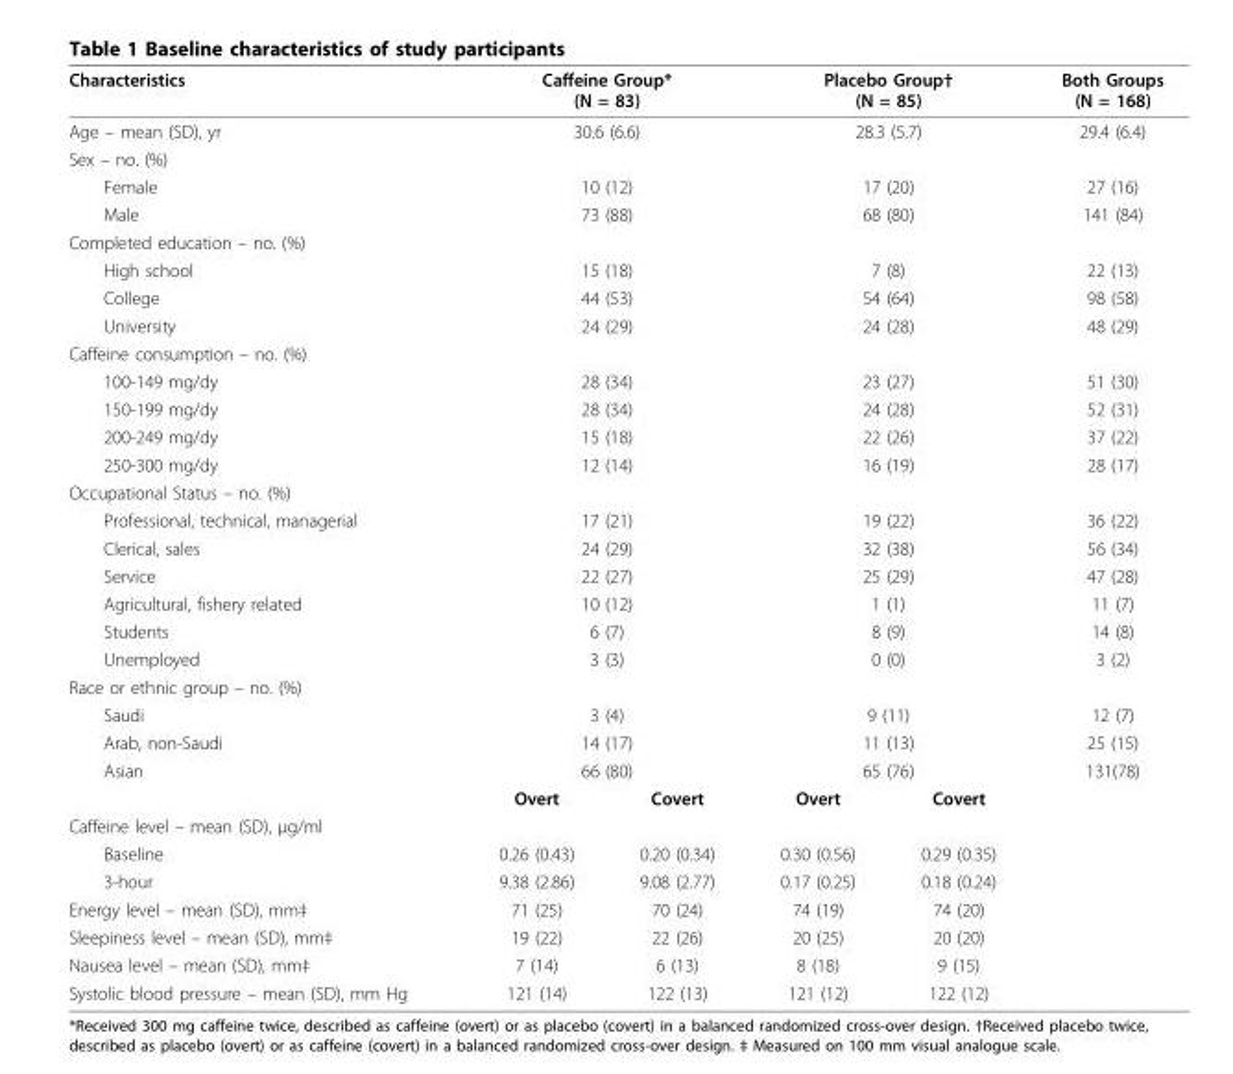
<table><thead><tr><td rowspan="3">Characteristics Age – mean (SD), yr Sex – no. (%)</td><td rowspan="2" colspan="2">Caffeine Group* (N = 83) 30.6 (6.6)</td><td rowspan="2" colspan="2">Placebo Group† (N = 85) 28.3 (5.7)</td><td rowspan="3">Both Groups (N = 168) 29.4 (6.4)</td></tr><tr></tr><tr><td></td><td></td><td></td><td></td></tr></thead><tbody><tr><td>Female</td><td colspan="2">10 (12)</td><td colspan="2">17 (20)</td><td>27 (16)</td></tr><tr><td>Male</td><td colspan="2">73 (88)</td><td colspan="2">68 (80)</td><td>141 (84)</td></tr><tr><td colspan="6">Completed education – no. (%)</td></tr><tr><td>High school</td><td colspan="2">15 (18)</td><td colspan="2">7 (8)</td><td>22 (13)</td></tr><tr><td>College</td><td colspan="2">44 (53)</td><td colspan="2">54 (64)</td><td>98 (58)</td></tr><tr><td>University</td><td colspan="2">24 (29)</td><td colspan="2">24 (28)</td><td>48 (29)</td></tr><tr><td colspan="6">Caffeine consumption – no. (%)</td></tr><tr><td>100-149 mg/dy</td><td colspan="2">28 (34)</td><td colspan="2">23 (27)</td><td>51 (30)</td></tr><tr><td>150-199 mg/dy</td><td colspan="2">28 (34)</td><td colspan="2">24 (28)</td><td>52 (31)</td></tr><tr><td>200-249 mg/dy</td><td colspan="2">15 (18)</td><td colspan="2">22 (26)</td><td>37 (22)</td></tr><tr><td>250-300 mg/dy</td><td colspan="2">12 (14)</td><td colspan="2">16 (19)</td><td>28 (17)</td></tr><tr><td colspan="6">Occupational Status – no. (%)</td></tr><tr><td>Professional, technical, managerial</td><td colspan="2">17 (21)</td><td colspan="2">19 (22)</td><td>36 (22)</td></tr><tr><td>Clerical, sales</td><td colspan="2">24 (29)</td><td colspan="2">32 (38)</td><td>56 (34)</td></tr><tr><td>Service</td><td colspan="2">22 (27)</td><td colspan="2">25 (29)</td><td>47 (28)</td></tr><tr><td>Agricultural, fishery related</td><td colspan="2">10 (12)</td><td colspan="2">1 (1)</td><td>11 (7)</td></tr><tr><td>Students</td><td colspan="2">6 (7)</td><td colspan="2">8 (9)</td><td>14 (8)</td></tr><tr><td>Unemployed</td><td colspan="2">3 (3)</td><td colspan="2">0 (0)</td><td>3 (2)</td></tr><tr><td colspan="6">Race or ethnic group – no. (%)</td></tr><tr><td>Saudi</td><td colspan="2">3 (4)</td><td colspan="2">9 (11)</td><td>12 (7)</td></tr><tr><td>Arab, non-Saudi</td><td colspan="2">14 (17)</td><td colspan="2">11 (13)</td><td>25 (15)</td></tr><tr><td rowspan="2">Asian</td><td colspan="2">66 (80)</td><td colspan="2">65 (76)</td><td>131(78)</td></tr><tr><td>Overt</td><td>Covert</td><td>Overt</td><td>Covert</td><td></td></tr><tr><td colspan="6">Caffeine level – mean (SD), μg/ml</td></tr><tr><td>Baseline</td><td>0.26 (0.43)</td><td>0.20 (0.34)</td><td>0.30 (0.56)</td><td>0.29 (0.35)</td><td></td></tr><tr><td>3-hour</td><td>9.38 (2.86)</td><td>9.08 (2.77)</td><td>0.17 (0.25)</td><td>0.18 (0.24)</td><td></td></tr><tr><td>Energy level – mean (SD), mm‡</td><td>71 (25)</td><td>70 (24)</td><td>74 (19)</td><td>74 (20)</td><td></td></tr><tr><td>Sleepiness level – mean (SD), mm‡</td><td>19 (22)</td><td>22 (26)</td><td>20 (25)</td><td>20 (20)</td><td></td></tr><tr><td>Nausea level – mean (SD), mm‡</td><td>7 (14)</td><td>6 (13)</td><td>8 (18)</td><td>9 (15)</td><td></td></tr><tr><td>Systolic blood pressure – mean (SD), mm Hg</td><td>121 (14)</td><td>122 (13)</td><td>121 (12)</td><td>122 (12)</td><td></td></tr></tbody></table>